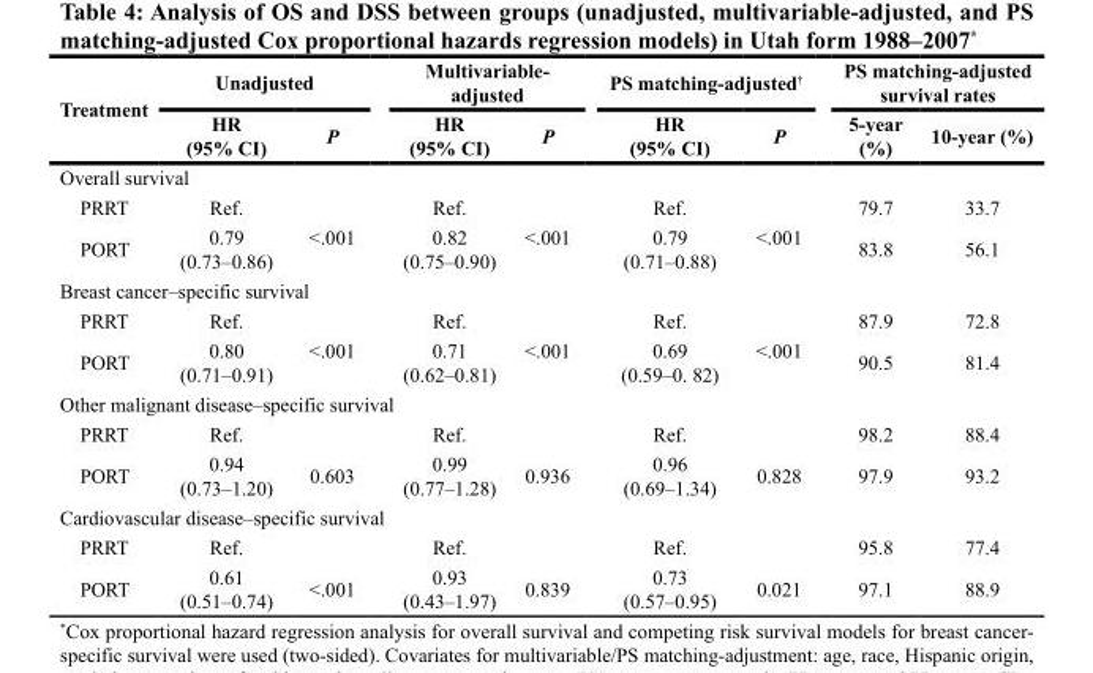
<table><thead><tr><td rowspan="2">Treatment</td><td colspan="2">Unadjusted</td><td colspan="2">Multivariable- adjusted</td><td colspan="2">PS matching-adjusted<sup>†</sup></td><td colspan="2">PS matching-adjusted survival rates</td></tr><tr><td>HR (95% CI)</td><td>P</td><td>HR (95% CI)</td><td>P</td><td>HR (95% CI)</td><td>P</td><td>5-year (%)</td><td>10-year (%)</td></tr></thead><tbody><tr><td colspan="9">Overall survival</td></tr><tr><td>PRRT</td><td>Ref.</td><td></td><td>Ref.</td><td></td><td>Ref.</td><td></td><td>79.7</td><td>33.7</td></tr><tr><td>PORT</td><td>0.79 (0.73–0.86)</td><td>&lt;.001</td><td>0.82 (0.75–0.90)</td><td>&lt;.001</td><td>0.79 (0.71–0.88)</td><td>&lt;.001</td><td>83.8</td><td>56.1</td></tr><tr><td colspan="9">Breast cancer–specific survival</td></tr><tr><td>PRRT</td><td>Ref.</td><td></td><td>Ref.</td><td></td><td>Ref.</td><td></td><td>87.9</td><td>72.8</td></tr><tr><td>PORT</td><td>0.80 (0.71–0.91)</td><td>&lt;.001</td><td>0.71 (0.62–0.81)</td><td>&lt;.001</td><td>0.69 (0.59–0. 82)</td><td>&lt;.001</td><td>90.5</td><td>81.4</td></tr><tr><td colspan="9">Other malignant disease–specific survival</td></tr><tr><td>PRRT</td><td>Ref.</td><td></td><td>Ref.</td><td></td><td>Ref.</td><td></td><td>98.2</td><td>88.4</td></tr><tr><td>PORT</td><td>0.94 (0.73–1.20)</td><td>0.603</td><td>0.99 (0.77–1.28)</td><td>0.936</td><td>0.96 (0.69–1.34)</td><td>0.828</td><td>97.9</td><td>93.2</td></tr><tr><td colspan="9">Cardiovascular disease–specific survival</td></tr><tr><td>PRRT</td><td>Ref.</td><td></td><td>Ref.</td><td></td><td>Ref.</td><td></td><td>95.8</td><td>77.4</td></tr><tr><td>PORT</td><td>0.61 (0.51–0.74)</td><td>&lt;.001</td><td>0.93 (0.43–1.97)</td><td>0.839</td><td>0.73 (0.57–0.95)</td><td>0.021</td><td>97.1</td><td>88.9</td></tr></tbody></table>